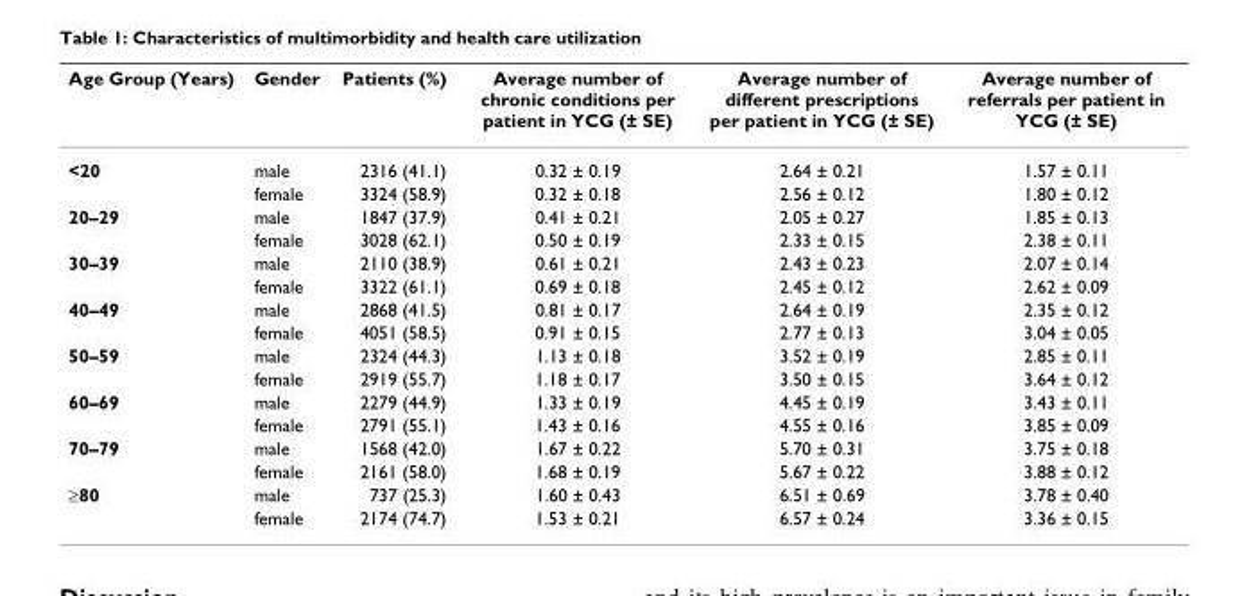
<table><thead><tr><td>Age Group (Years)</td><td>Gender</td><td>Patients (%)</td><td>Average number of chronic conditions per patient in YCG (± SE)</td><td>Average number of different prescriptions per patient in YCG (± SE)</td><td>Average number of referrals per patient in YCG (± SE)</td></tr></thead><tbody><tr><td rowspan="2">&lt;20</td><td>male</td><td>2316 (41.1)</td><td>0.32 ± 0.19</td><td>2.64 ± 0.21</td><td>1.57 ± 0.11</td></tr><tr><td>female</td><td>3324 (58.9)</td><td>0.32 ± 0.18</td><td>2.56 ± 0.12</td><td>1.80 ± 0.12</td></tr><tr><td rowspan="2">20–29</td><td>male</td><td>1847 (37.9)</td><td>0.41 ± 0.21</td><td>2.05 ± 0.27</td><td>1.85 ± 0.13</td></tr><tr><td>female</td><td>3028 (62.1)</td><td>0.50 ± 0.19</td><td>2.33 ± 0.15</td><td>2.38 ± 0.11</td></tr><tr><td rowspan="2">30–39</td><td>male</td><td>2110 (38.9)</td><td>0.61 ± 0.21</td><td>2.43 ± 0.23</td><td>2.07 ± 0.14</td></tr><tr><td>female</td><td>3322 (61.1)</td><td>0.69 ± 0.18</td><td>2.45 ± 0.12</td><td>2.62 ± 0.09</td></tr><tr><td rowspan="2">40–49</td><td>male</td><td>2868 (41.5)</td><td>0.81 ± 0.17</td><td>2.64 ± 0.19</td><td>2.35 ± 0.12</td></tr><tr><td>female</td><td>4051 (58.5)</td><td>0.91 ± 0.15</td><td>2.77 ± 0.13</td><td>3.04 ± 0.05</td></tr><tr><td rowspan="2">50–59</td><td>male</td><td>2324 (44.3)</td><td>1.13 ± 0.18</td><td>3.52 ± 0.19</td><td>2.85 ± 0.11</td></tr><tr><td>female</td><td>2919 (55.7)</td><td>1.18 ± 0.17</td><td>3.50 ± 0.15</td><td>3.64 ± 0.12</td></tr><tr><td rowspan="2">60–69</td><td>male</td><td>2279 (44.9)</td><td>1.33 ± 0.19</td><td>4.45 ± 0.19</td><td>3.43 ± 0.11</td></tr><tr><td>female</td><td>2791 (55.1)</td><td>1.43 ± 0.16</td><td>4.55 ± 0.16</td><td>3.85 ± 0.09</td></tr><tr><td rowspan="2">70–79</td><td>male</td><td>1568 (42.0)</td><td>1.67 ± 0.22</td><td>5.70 ± 0.31</td><td>3.75 ± 0.18</td></tr><tr><td>female</td><td>2161 (58.0)</td><td>1.68 ± 0.19</td><td>5.67 ± 0.22</td><td>3.88 ± 0.12</td></tr><tr><td rowspan="2">≥80</td><td>male</td><td>737 (25.3)</td><td>1.60 ± 0.43</td><td>6.51 ± 0.69</td><td>3.78 ± 0.40</td></tr><tr><td>female</td><td>2174 (74.7)</td><td>1.53 ± 0.21</td><td>6.57 ± 0.24</td><td>3.36 ± 0.15</td></tr></tbody></table>